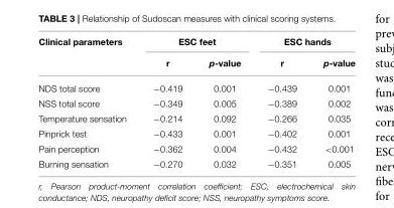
<table><thead><tr><td rowspan="2">Clinical parameters</td><td colspan="2">ESC feet</td><td colspan="2">ESC hands</td></tr><tr><td>r</td><td>p-value</td><td>r</td><td>p-value</td></tr></thead><tbody><tr><td>NDS total score</td><td>−0.419</td><td>0.001</td><td>−0.439</td><td>0.001</td></tr><tr><td>NSS total score</td><td>−0.349</td><td>0.005</td><td>−0.389</td><td>0.002</td></tr><tr><td>Temperature sensation</td><td>−0.214</td><td>0.092</td><td>−0.266</td><td>0.035</td></tr><tr><td>Pinprick test</td><td>−0.433</td><td>0.001</td><td>−0.402</td><td>0.001</td></tr><tr><td>Pain perception</td><td>−0.362</td><td>0.004</td><td>−0.432</td><td>&lt;0.001</td></tr><tr><td>Burning sensation</td><td>−0.270</td><td>0.032</td><td>−0.351</td><td>0.005</td></tr></tbody></table>